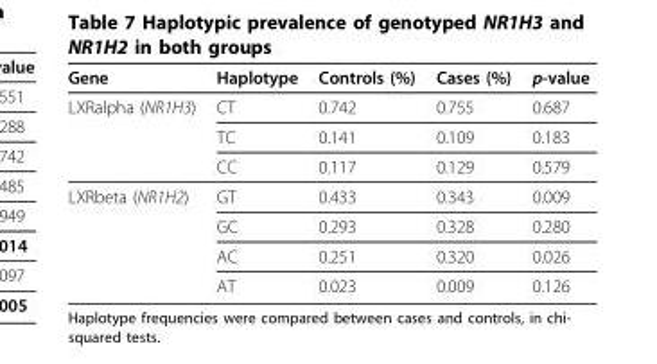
<table><thead><tr><td>Gene</td><td>Haplotype</td><td>Controls (%)</td><td>Cases (%)</td><td>p-value</td></tr></thead><tbody><tr><td rowspan="3">LXRalpha (NR1H3)</td><td>CT</td><td>0.742</td><td>0.755</td><td>0.687</td></tr><tr><td>TC</td><td>0.141</td><td>0.109</td><td>0.183</td></tr><tr><td>CC</td><td>0.117</td><td>0.129</td><td>0.579</td></tr><tr><td rowspan="4">LXRbeta (NR1H2)</td><td>GT</td><td>0.433</td><td>0.343</td><td>0.009</td></tr><tr><td>GC</td><td>0.293</td><td>0.328</td><td>0.280</td></tr><tr><td>AC</td><td>0.251</td><td>0.320</td><td>0.026</td></tr><tr><td>AT</td><td>0.023</td><td>0.009</td><td>0.126</td></tr></tbody></table>